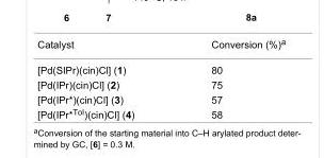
<table><tbody><tr><td>Catalyst</td><td>Conversion (%)<sup>a</sup></td></tr><tr><td>[Pd(SIPr)(cin)Cl] (1)</td><td>80</td></tr><tr><td>[Pd(IPr)(cin)Cl] (2)</td><td>75</td></tr><tr><td>[Pd(IPr*)(cin)Cl] (3)</td><td>57</td></tr><tr><td>[Pd(IPr*<sup>Tol</sup>)(cin)Cl] (4)</td><td>58</td></tr></tbody></table>